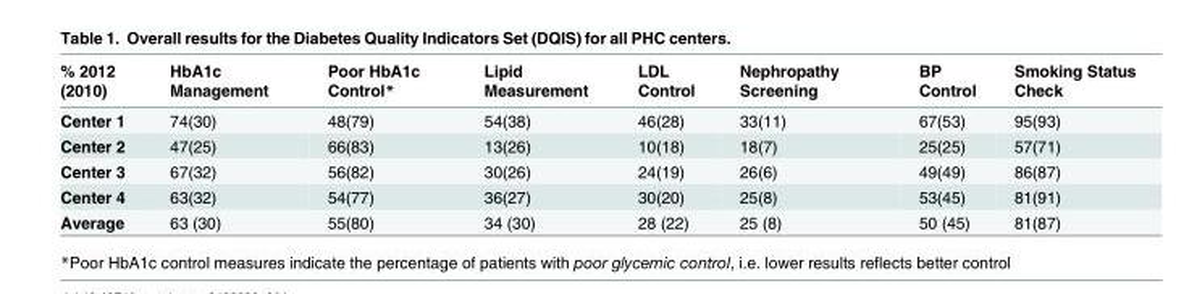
<table><thead><tr><td>% 2012 (2010)</td><td>HbA1c Management</td><td>Poor HbA1c Control*</td><td>Lipid Measurement</td><td>LDL Control</td><td>Nephropathy Screening</td><td>BP Control</td><td>Smoking Status Check</td></tr></thead><tbody><tr><td>Center 1</td><td>74(30)</td><td>48(79)</td><td>54(38)</td><td>46(28)</td><td>33(11)</td><td>67(53)</td><td>95(93)</td></tr><tr><td>Center 2</td><td>47(25)</td><td>66(83)</td><td>13(26)</td><td>10(18)</td><td>18(7)</td><td>25(25)</td><td>57(71)</td></tr><tr><td>Center 3</td><td>67(32)</td><td>56(82)</td><td>30(26)</td><td>24(19)</td><td>26(6)</td><td>49(49)</td><td>86(87)</td></tr><tr><td>Center 4</td><td>63(32)</td><td>54(77)</td><td>36(27)</td><td>30(20)</td><td>25(8)</td><td>53(45)</td><td>81(91)</td></tr><tr><td>Average</td><td>63 (30)</td><td>55(80)</td><td>34 (30)</td><td>28 (22)</td><td>25 (8)</td><td>50 (45)</td><td>81(87)</td></tr></tbody></table>